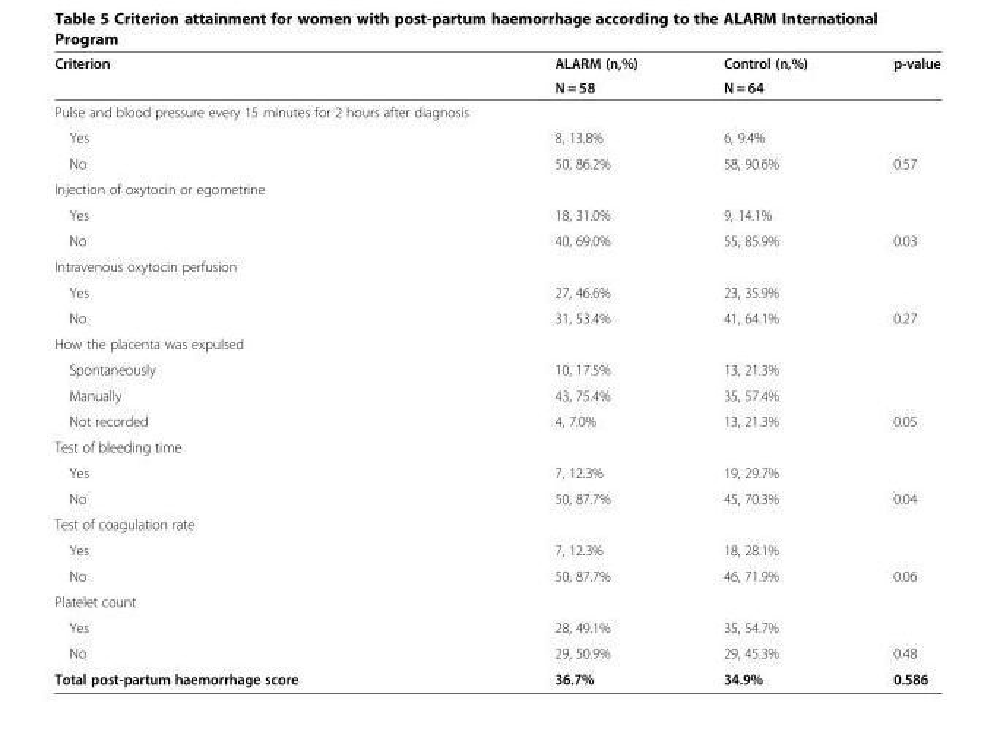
<table><thead><tr><td rowspan="2">Criterion</td><td rowspan="2">ALARM (n,%) N = 58</td><td rowspan="2">Control (n,%) N = 64</td><td rowspan="2">p-value</td></tr><tr></tr></thead><tbody><tr><td colspan="4">Pulse and blood pressure every 15 minutes for 2 hours after diagnosis</td></tr><tr><td>Yes</td><td>8, 13.8%</td><td>6, 9.4%</td><td></td></tr><tr><td>No</td><td>50, 86.2%</td><td>58, 90.6%</td><td>0.57</td></tr><tr><td colspan="4">Injection of oxytocin or egometrine</td></tr><tr><td>Yes</td><td>18, 31.0%</td><td>9, 14.1%</td><td></td></tr><tr><td>No</td><td>40, 69.0%</td><td>55, 85.9%</td><td>0.03</td></tr><tr><td colspan="4">Intravenous oxytocin perfusion</td></tr><tr><td>Yes</td><td>27, 46.6%</td><td>23, 35.9%</td><td></td></tr><tr><td>No</td><td>31, 53.4%</td><td>41, 64.1%</td><td>0.27</td></tr><tr><td colspan="4">How the placenta was expulsed</td></tr><tr><td>Spontaneously</td><td>10, 17.5%</td><td>13, 21.3%</td><td></td></tr><tr><td>Manually</td><td>43, 75.4%</td><td>35, 57.4%</td><td></td></tr><tr><td>Not recorded</td><td>4, 7.0%</td><td>13, 21.3%</td><td>0.05</td></tr><tr><td colspan="4">Test of bleeding time</td></tr><tr><td>Yes</td><td>7, 12.3%</td><td>19, 29.7%</td><td></td></tr><tr><td>No</td><td>50, 87.7%</td><td>45, 70.3%</td><td>0.04</td></tr><tr><td colspan="4">Test of coagulation rate</td></tr><tr><td>Yes</td><td>7, 12.3%</td><td>18, 28.1%</td><td></td></tr><tr><td>No</td><td>50, 87.7%</td><td>46, 71.9%</td><td>0.06</td></tr><tr><td colspan="4">Platelet count</td></tr><tr><td>Yes</td><td>28, 49.1%</td><td>35, 54.7%</td><td></td></tr><tr><td>No</td><td>29, 50.9%</td><td>29, 45.3%</td><td>0.48</td></tr><tr><td>Total post-partum haemorrhage score</td><td>36.7%</td><td>34.9%</td><td>0.586</td></tr></tbody></table>